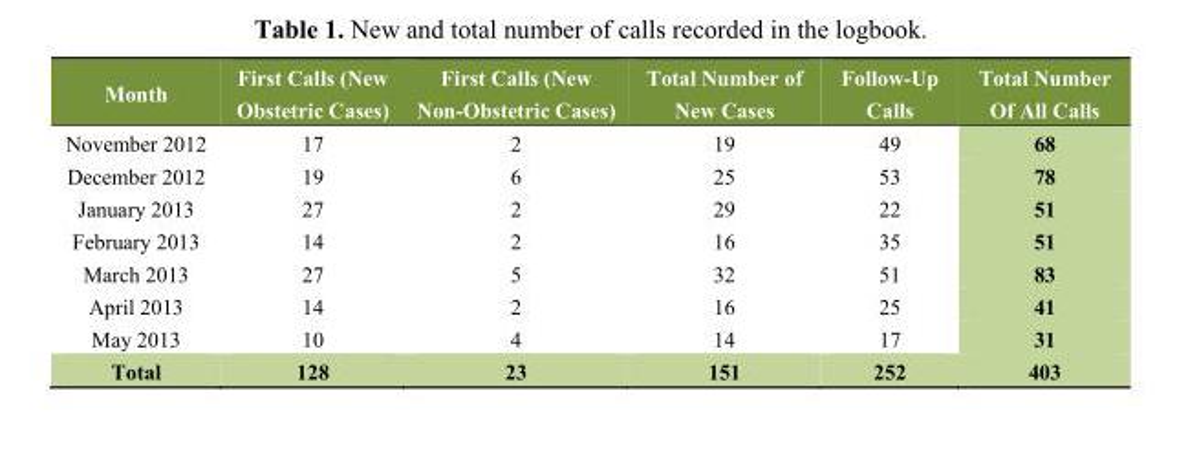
<table><thead><tr><td>Month</td><td>First Calls (New Obstetric Cases)</td><td>First Calls (New Non-Obstetric Cases)</td><td>Total Number of New Cases</td><td>Follow-Up Calls</td><td>Total Number Of All Calls</td></tr></thead><tbody><tr><td>November 2012</td><td>17</td><td>2</td><td>19</td><td>49</td><td>68</td></tr><tr><td>December 2012</td><td>19</td><td>6</td><td>25</td><td>53</td><td>78</td></tr><tr><td>January 2013</td><td>27</td><td>2</td><td>29</td><td>22</td><td>51</td></tr><tr><td>February 2013</td><td>14</td><td>2</td><td>16</td><td>35</td><td>51</td></tr><tr><td>March 2013</td><td>27</td><td>5</td><td>32</td><td>51</td><td>83</td></tr><tr><td>April 2013</td><td>14</td><td>2</td><td>16</td><td>25</td><td>41</td></tr><tr><td>May 2013</td><td>10</td><td>4</td><td>14</td><td>17</td><td>31</td></tr><tr><td>Total</td><td>128</td><td>23</td><td>151</td><td>252</td><td>403</td></tr></tbody></table>